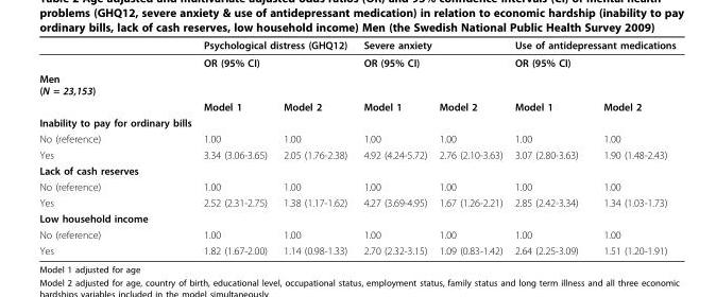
<table><thead><tr><td rowspan="3">Men (N = 23,153)</td><td rowspan="2" colspan="2">Psychological distress (GHQ12) OR (95% CI)</td><td rowspan="2" colspan="2">Severe anxiety OR (95% CI)</td><td rowspan="2" colspan="2">Use of antidepressant medications OR (95% CI)</td></tr><tr></tr><tr><td></td><td></td><td></td><td></td><td></td><td></td></tr></thead><tbody><tr><td></td><td>Model 1</td><td>Model 2</td><td>Model 1</td><td>Model 2</td><td>Model 1</td><td>Model 2</td></tr><tr><td colspan="7">Inability to pay for ordinary bills</td></tr><tr><td>No (reference)</td><td>1.00</td><td>1.00</td><td>1.00</td><td>1.00</td><td>1.00</td><td>1.00</td></tr><tr><td>Yes</td><td>3.34 (3.06-3.65)</td><td>2.05 (1.76-2.38)</td><td>4.92 (4.24-5.72)</td><td>2.76 (2.10-3.63)</td><td>3.07 (2.80-3.63)</td><td>1.90 (1.48-2.43)</td></tr><tr><td colspan="7">Lack of cash reserves</td></tr><tr><td>No (reference)</td><td>1.00</td><td>1.00</td><td>1.00</td><td>1.00</td><td>1.00</td><td>1.00</td></tr><tr><td>Yes</td><td>2.52 (2.31-2.75)</td><td>1.38 (1.17-1.62)</td><td>4.27 (3.69-4.95)</td><td>1.67 (1.26-2.21)</td><td>2.85 (2.42-3.34)</td><td>1.34 (1.03-1.73)</td></tr><tr><td colspan="7">Low household income</td></tr><tr><td>No (reference)</td><td>1.00</td><td>1.00</td><td>1.00</td><td>1.00</td><td>1.00</td><td>1.00</td></tr><tr><td>Yes</td><td>1.82 (1.67-2.00)</td><td>1.14 (0.98-1.33)</td><td>2.70 (2.32-3.15)</td><td>1.09 (0.83-1.42)</td><td>2.64 (2.25-3.09)</td><td>1.51 (1.20-1.91)</td></tr></tbody></table>